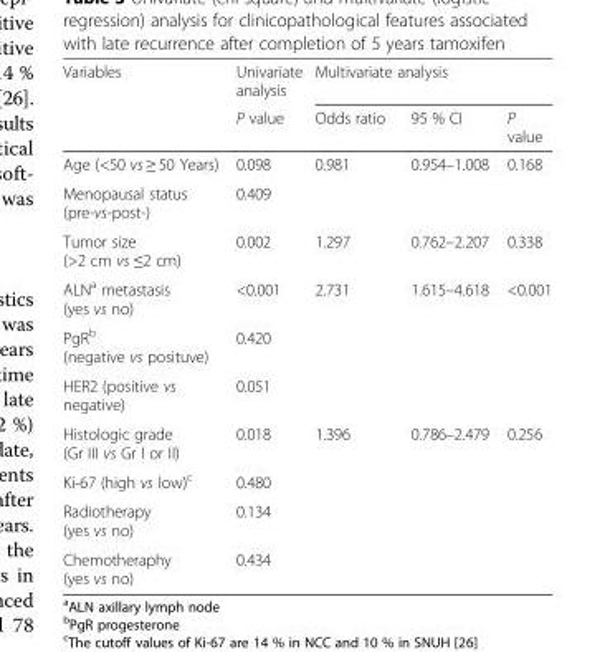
<table><thead><tr><td rowspan="2">Variables</td><td rowspan="2">Univariate analysis P value</td><td colspan="3">Multivariate analysis</td></tr><tr><td>Odds ratio</td><td>95 % CI</td><td>P value</td></tr></thead><tbody><tr><td>Age (&lt;50 vs ≥ 50 Years)</td><td>0.098</td><td>0.981</td><td>0.954–1.008</td><td>0.168</td></tr><tr><td>Menopausal status (pre-vs-post-)</td><td>0.409</td><td></td><td></td><td></td></tr><tr><td>Tumor size (&gt;2 cm vs ≤2 cm)</td><td>0.002</td><td>1.297</td><td>0.762–2.207</td><td>0.338</td></tr><tr><td>ALN<sup>a</sup> metastasis (yes vs no)</td><td>&lt;0.001</td><td>2.731</td><td>1.615–4.618</td><td>&lt;0.001</td></tr><tr><td>PgR<sup>b</sup> (negative vs posituve)</td><td>0.420</td><td></td><td></td><td></td></tr><tr><td>HER2 (positive vs negative)</td><td>0.051</td><td></td><td></td><td></td></tr><tr><td>Histologic grade (Gr III vs Gr I or II)</td><td>0.018</td><td>1.396</td><td>0.786–2.479</td><td>0.256</td></tr><tr><td>Ki-67 (high vs low)<sup>c</sup></td><td>0.480</td><td></td><td></td><td></td></tr><tr><td>Radiotherapy (yes vs no)</td><td>0.134</td><td></td><td></td><td></td></tr><tr><td>Chemotheraphy (yes vs no)</td><td>0.434</td><td></td><td></td><td></td></tr></tbody></table>